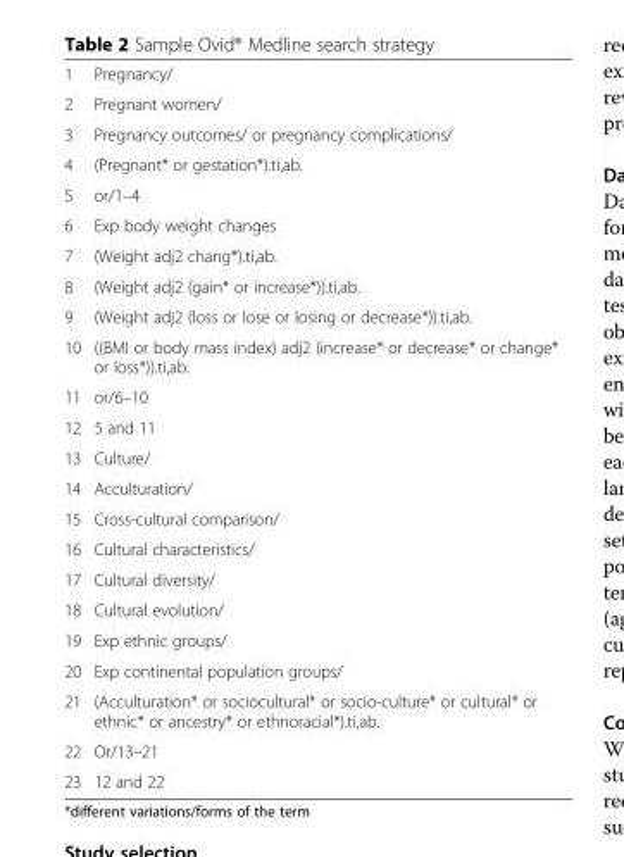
<table><tbody><tr><td>1</td><td>Pregnancy/</td></tr><tr><td>2</td><td>Pregnant women/</td></tr><tr><td>3</td><td>Pregnancy outcomes/ or pregnancy complications/</td></tr><tr><td>4</td><td>(Pregnant* or gestation*).ti,ab.</td></tr><tr><td>5</td><td>or/1–4</td></tr><tr><td>6</td><td>Exp body weight changes</td></tr><tr><td>7</td><td>(Weight adj2 chang*).ti,ab.</td></tr><tr><td>8</td><td>(Weight adj2 (gain* or increase*)).ti,ab.</td></tr><tr><td>9</td><td>(Weight adj2 (loss or lose or losing or decrease*)).ti,ab.</td></tr><tr><td>10</td><td>((BMI or body mass index) adj2 (increase* or decrease* or change* or loss*)).ti,ab.</td></tr><tr><td>11</td><td>or/6–10</td></tr><tr><td>12</td><td>5 and 11</td></tr><tr><td>13</td><td>Culture/</td></tr><tr><td>14</td><td>Acculturation/</td></tr><tr><td>15</td><td>Cross-cultural comparison/</td></tr><tr><td>16</td><td>Cultural characteristics/</td></tr><tr><td>17</td><td>Cultural diversity/</td></tr><tr><td>18</td><td>Cultural evolution/</td></tr><tr><td>19</td><td>Exp ethnic groups/</td></tr><tr><td>20</td><td>Exp continental population groups/</td></tr><tr><td>21</td><td>(Acculturation* or sociocultural* or socio-culture* or cultural* or ethnic* or ancestry* or ethnoracial*).ti,ab.</td></tr><tr><td>22</td><td>Or/13–21</td></tr><tr><td>23</td><td>12 and 22</td></tr></tbody></table>